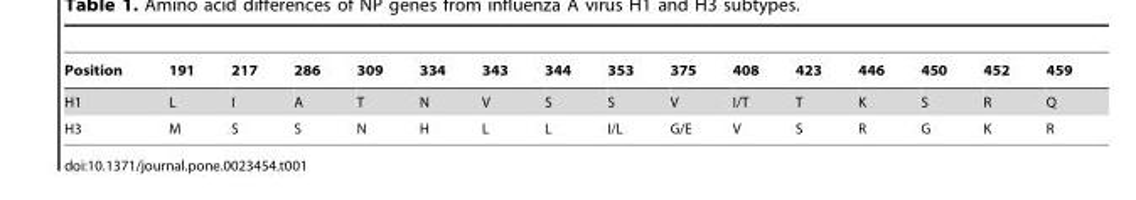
<table><thead><tr><td>Position</td><td>191</td><td>217</td><td>286</td><td>309</td><td>334</td><td>343</td><td>344</td><td>353</td><td>375</td><td>408</td><td>423</td><td>446</td><td>450</td><td>452</td><td>459</td></tr></thead><tbody><tr><td>H1</td><td>L</td><td>I</td><td>A</td><td>T</td><td>N</td><td>V</td><td>S</td><td>S</td><td>V</td><td>I/T</td><td>T</td><td>K</td><td>S</td><td>R</td><td>Q</td></tr><tr><td>H3</td><td>M</td><td>S</td><td>S</td><td>N</td><td>H</td><td>L</td><td>L</td><td>I/L</td><td>G/E</td><td>V</td><td>S</td><td>R</td><td>G</td><td>K</td><td>R</td></tr></tbody></table>